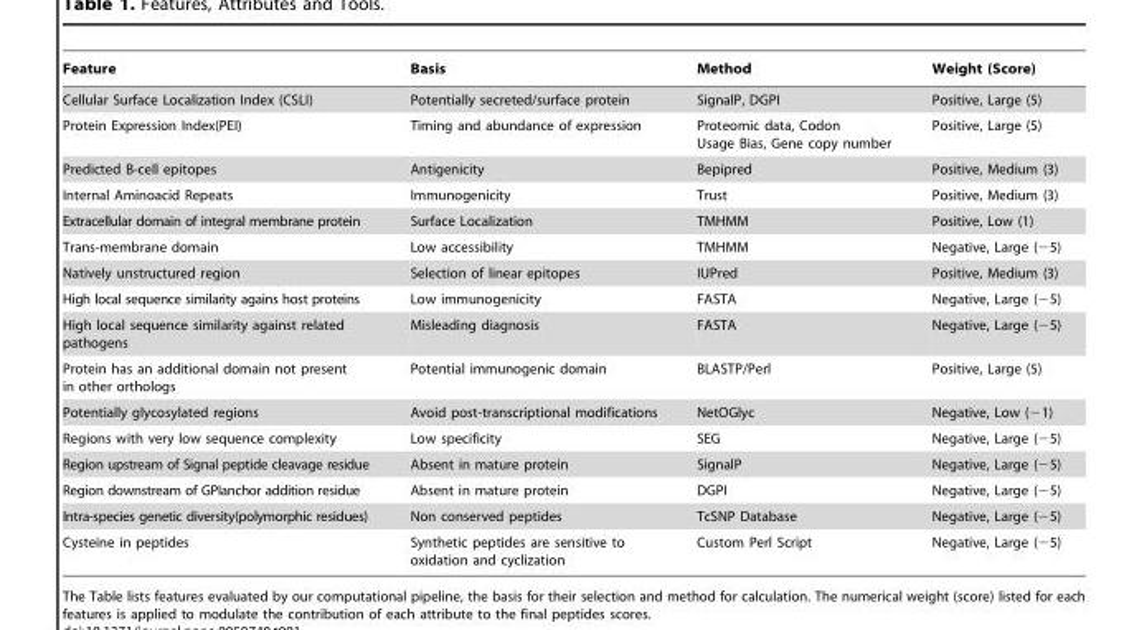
<table><thead><tr><td>Feature</td><td>Basis</td><td>Method</td><td>Weight (Score)</td></tr></thead><tbody><tr><td>Cellular Surface Localization Index (CSLI)</td><td>Potentially secreted/surface protein</td><td>SignalP, DGPI</td><td>Positive, Large (5)</td></tr><tr><td>Protein Expression Index(PEI)</td><td>Timing and abundance of expression</td><td>Proteomic data, Codon Usage Bias, Gene copy number</td><td>Positive, Large (5)</td></tr><tr><td>Predicted B-cell epitopes</td><td>Antigenicity</td><td>Bepipred</td><td>Positive, Medium (3)</td></tr><tr><td>Internal Aminoacid Repeats</td><td>Immunogenicity</td><td>Trust</td><td>Positive, Medium (3)</td></tr><tr><td>Extracellular domain of integral membrane protein</td><td>Surface Localization</td><td>TMHMM</td><td>Positive, Low (1)</td></tr><tr><td>Trans-membrane domain</td><td>Low accessibility</td><td>TMHMM</td><td>Negative, Large (−5)</td></tr><tr><td>Natively unstructured region</td><td>Selection of linear epitopes</td><td>IUPred</td><td>Positive, Medium (3)</td></tr><tr><td>High local sequence similarity agains host proteins</td><td>Low immunogenicity</td><td>FASTA</td><td>Negative, Large (−5)</td></tr><tr><td>High local sequence similarity against related pathogens</td><td>Misleading diagnosis</td><td>FASTA</td><td>Negative, Large (−5)</td></tr><tr><td>Protein has an additional domain not present in other orthologs</td><td>Potential immunogenic domain</td><td>BLASTP/Perl</td><td>Positive, Large (5)</td></tr><tr><td>Potentially glycosylated regions</td><td>Avoid post-transcriptional modifications</td><td>NetOGlyc</td><td>Negative, Low (−1)</td></tr><tr><td>Regions with very low sequence complexity</td><td>Low specificity</td><td>SEG</td><td>Negative, Large (−5)</td></tr><tr><td>Region upstream of Signal peptide cleavage residue</td><td>Absent in mature protein</td><td>SignalP</td><td>Negative, Large (−5)</td></tr><tr><td>Region downstream of GPIanchor addition residue</td><td>Absent in mature protein</td><td>DGPI</td><td>Negative, Large (−5)</td></tr><tr><td>Intra-species genetic diversity(polymorphic residues)</td><td>Non conserved peptides</td><td>TcSNP Database</td><td>Negative, Large (−5)</td></tr><tr><td>Cysteine in peptides</td><td>Synthetic peptides are sensitive to oxidation and cyclization</td><td>Custom Perl Script</td><td>Negative, Large (−5)</td></tr></tbody></table>